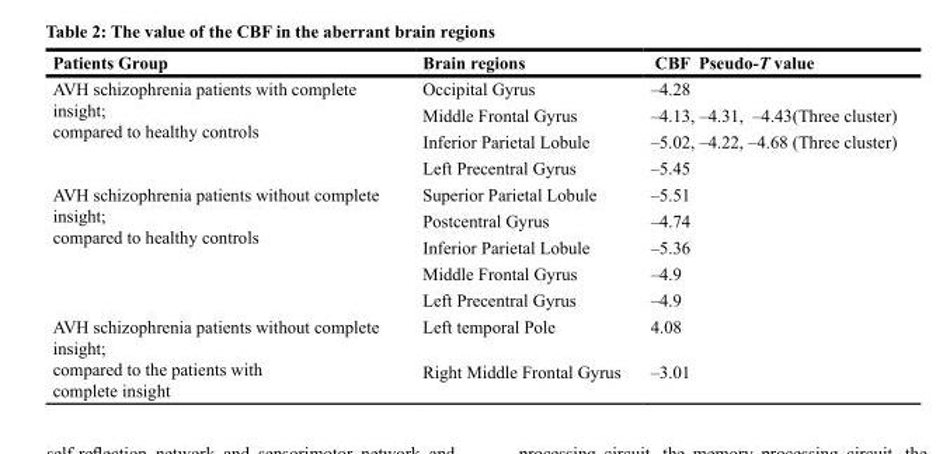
<table><thead><tr><td>Patients Group</td><td>Brain regions</td><td>CBF Pseudo-T value</td></tr></thead><tbody><tr><td rowspan="4">AVH schizophrenia patients with complete insight; compared to healthy controls</td><td>Occipital Gyrus</td><td>–4.28</td></tr><tr><td>Middle Frontal Gyrus</td><td>–4.13, –4.31, –4.43(Three cluster)</td></tr><tr><td>Inferior Parietal Lobule</td><td>–5.02, –4.22, –4.68 (Three cluster)</td></tr><tr><td>Left Precentral Gyrus</td><td>–5.45</td></tr><tr><td rowspan="5">AVH schizophrenia patients without complete insight; compared to healthy controls</td><td>Superior Parietal Lobule</td><td>–5.51</td></tr><tr><td>Postcentral Gyrus</td><td>–4.74</td></tr><tr><td>Inferior Parietal Lobule</td><td>–5.36</td></tr><tr><td>Middle Frontal Gyrus</td><td>–4.9</td></tr><tr><td>Left Precentral Gyrus</td><td>–4.9</td></tr><tr><td>AVH schizophrenia patients without complete insight;</td><td>Left temporal Pole</td><td>4.08</td></tr><tr><td>compared to the patients with complete insight</td><td>Right Middle Frontal Gyrus</td><td>–3.01</td></tr></tbody></table>